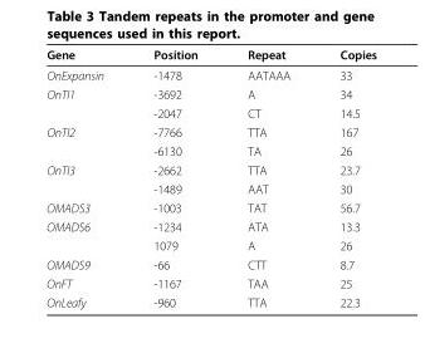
<table><thead><tr><td>Gene</td><td>Position</td><td>Repeat</td><td>Copies</td></tr></thead><tbody><tr><td>OnExpansin</td><td>-1478</td><td>AATAAA</td><td>33</td></tr><tr><td rowspan="2">OnTI1</td><td>-3692</td><td>A</td><td>34</td></tr><tr><td>-2047</td><td>CT</td><td>14.5</td></tr><tr><td rowspan="2">OnTI2</td><td>-7766</td><td>TTA</td><td>167</td></tr><tr><td>-6130</td><td>TA</td><td>26</td></tr><tr><td rowspan="2">OnTI3</td><td>-2662</td><td>TTA</td><td>23.7</td></tr><tr><td>-1489</td><td>AAT</td><td>30</td></tr><tr><td>OMADS3</td><td>-1003</td><td>TAT</td><td>56.7</td></tr><tr><td rowspan="2">OMADS6</td><td>-1234</td><td>ATA</td><td>13.3</td></tr><tr><td>1079</td><td>A</td><td>26</td></tr><tr><td>OMADS9</td><td>-66</td><td>CTT</td><td>8.7</td></tr><tr><td>OnFT</td><td>-1167</td><td>TAA</td><td>25</td></tr><tr><td>OnLeafy</td><td>-960</td><td>TTA</td><td>22.3</td></tr></tbody></table>